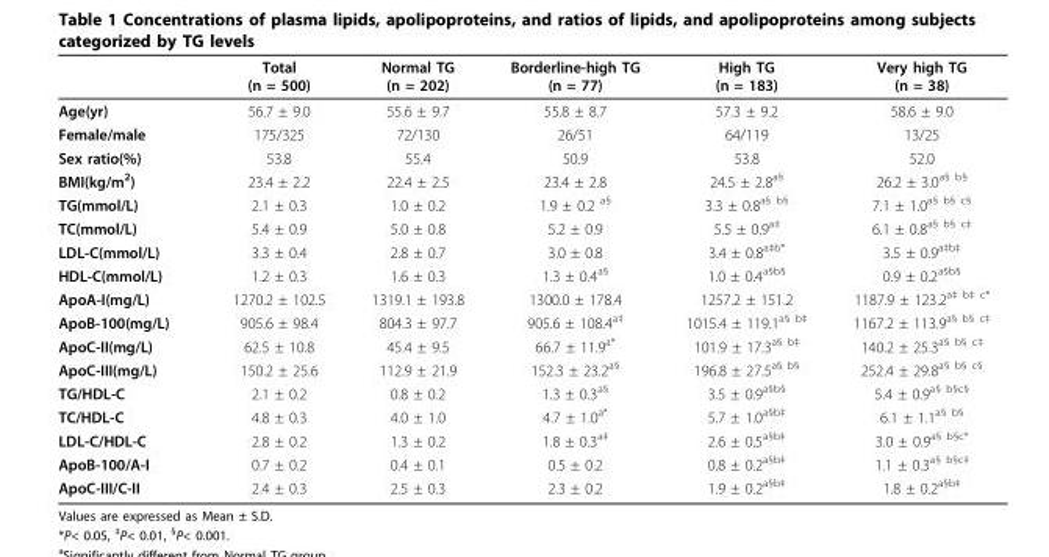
<table><thead><tr><td></td><td>Total (n = 500)</td><td>Normal TG (n = 202)</td><td>Borderline-high TG (n = 77)</td><td>High TG (n = 183)</td><td>Very high TG (n = 38)</td></tr></thead><tbody><tr><td>Age(yr)</td><td>56.7 ± 9.0</td><td>55.6 ± 9.7</td><td>55.8 ± 8.7</td><td>57.3 ± 9.2</td><td>58.6 ± 9.0</td></tr><tr><td>Female/male</td><td>175/325</td><td>72/130</td><td>26/51</td><td>64/119</td><td>13/25</td></tr><tr><td>Sex ratio(%)</td><td>53.8</td><td>55.4</td><td>50.9</td><td>53.8</td><td>52.0</td></tr><tr><td>BMI(kg/m<sup>2</sup>)</td><td>23.4 ± 2.2</td><td>22.4 ± 2.5</td><td>23.4 ± 2.8</td><td>24.5 ± 2.8<sup>a§</sup></td><td>26.2 ± 3.0<sup>a§ b§</sup></td></tr><tr><td>TG(mmol/L)</td><td>2.1 ± 0.3</td><td>1.0 ± 0.2</td><td>1.9 ± 0.2 <sup>a§</sup></td><td>3.3 ± 0.8<sup>a§ b§</sup></td><td>7.1 ± 1.0<sup>a§ b§ c§</sup></td></tr><tr><td>TC(mmol/L)</td><td>5.4 ± 0.9</td><td>5.0 ± 0.8</td><td>5.2 ± 0.9</td><td>5.5 ± 0.9<sup>a‡</sup></td><td>6.1 ± 0.8<sup>a§ b§ c‡</sup></td></tr><tr><td>LDL-C(mmol/L)</td><td>3.3 ± 0.4</td><td>2.8 ± 0.7</td><td>3.0 ± 0.8</td><td>3.4 ± 0.8<sup>a‡b*</sup></td><td>3.5 ± 0.9<sup>a‡b‡</sup></td></tr><tr><td>HDL-C(mmol/L)</td><td>1.2 ± 0.3</td><td>1.6 ± 0.3</td><td>1.3 ± 0.4<sup>a§</sup></td><td>1.0 ± 0.4<sup>a§b§</sup></td><td>0.9 ± 0.2<sup>a§b§</sup></td></tr><tr><td>ApoA-I(mg/L)</td><td>1270.2 ± 102.5</td><td>1319.1 ± 193.8</td><td>1300.0 ± 178.4</td><td>1257.2 ± 151.2</td><td>1187.9 ± 123.2<sup>a‡ b‡ c*</sup></td></tr><tr><td>ApoB-100(mg/L)</td><td>905.6 ± 98.4</td><td>804.3 ± 97.7</td><td>905.6 ± 108.4<sup>a‡</sup></td><td>1015.4 ± 119.1<sup>a§ b‡</sup></td><td>1167.2 ± 113.9<sup>a§ b§ c‡</sup></td></tr><tr><td>ApoC-II(mg/L)</td><td>62.5 ± 10.8</td><td>45.4 ± 9.5</td><td>66.7 ± 11.9<sup>a*</sup></td><td>101.9 ± 17.3<sup>a§ b‡</sup></td><td>140.2 ± 25.3<sup>a§ b§ c‡</sup></td></tr><tr><td>ApoC-III(mg/L)</td><td>150.2 ± 25.6</td><td>112.9 ± 21.9</td><td>152.3 ± 23.2<sup>a§</sup></td><td>196.8 ± 27.5<sup>a§ b§</sup></td><td>252.4 ± 29.8<sup>a§ b§ c§</sup></td></tr><tr><td>TG/HDL-C</td><td>2.1 ± 0.2</td><td>0.8 ± 0.2</td><td>1.3 ± 0.3<sup>a§</sup></td><td>3.5 ± 0.9<sup>a§b§</sup></td><td>5.4 ± 0.9<sup>a§ b§c§</sup></td></tr><tr><td>TC/HDL-C</td><td>4.8 ± 0.3</td><td>4.0 ± 1.0</td><td>4.7 ± 1.0<sup>a*</sup></td><td>5.7 ± 1.0<sup>a§b‡</sup></td><td>6.1 ± 1.1<sup>a§ b§</sup></td></tr><tr><td>LDL-C/HDL-C</td><td>2.8 ± 0.2</td><td>1.3 ± 0.2</td><td>1.8 ± 0.3<sup>a‡</sup></td><td>2.6 ± 0.5<sup>a§b‡</sup></td><td>3.0 ± 0.9<sup>a§ b§c*</sup></td></tr><tr><td>ApoB-100/A-I</td><td>0.7 ± 0.2</td><td>0.4 ± 0.1</td><td>0.5 ± 0.2</td><td>0.8 ± 0.2<sup>a§b‡</sup></td><td>1.1 ± 0.3<sup>a§ b§c‡</sup></td></tr><tr><td>ApoC-III/C-II</td><td>2.4 ± 0.3</td><td>2.5 ± 0.3</td><td>2.3 ± 0.2</td><td>1.9 ± 0.2<sup>a§b‡</sup></td><td>1.8 ± 0.2<sup>a§b‡</sup></td></tr></tbody></table>